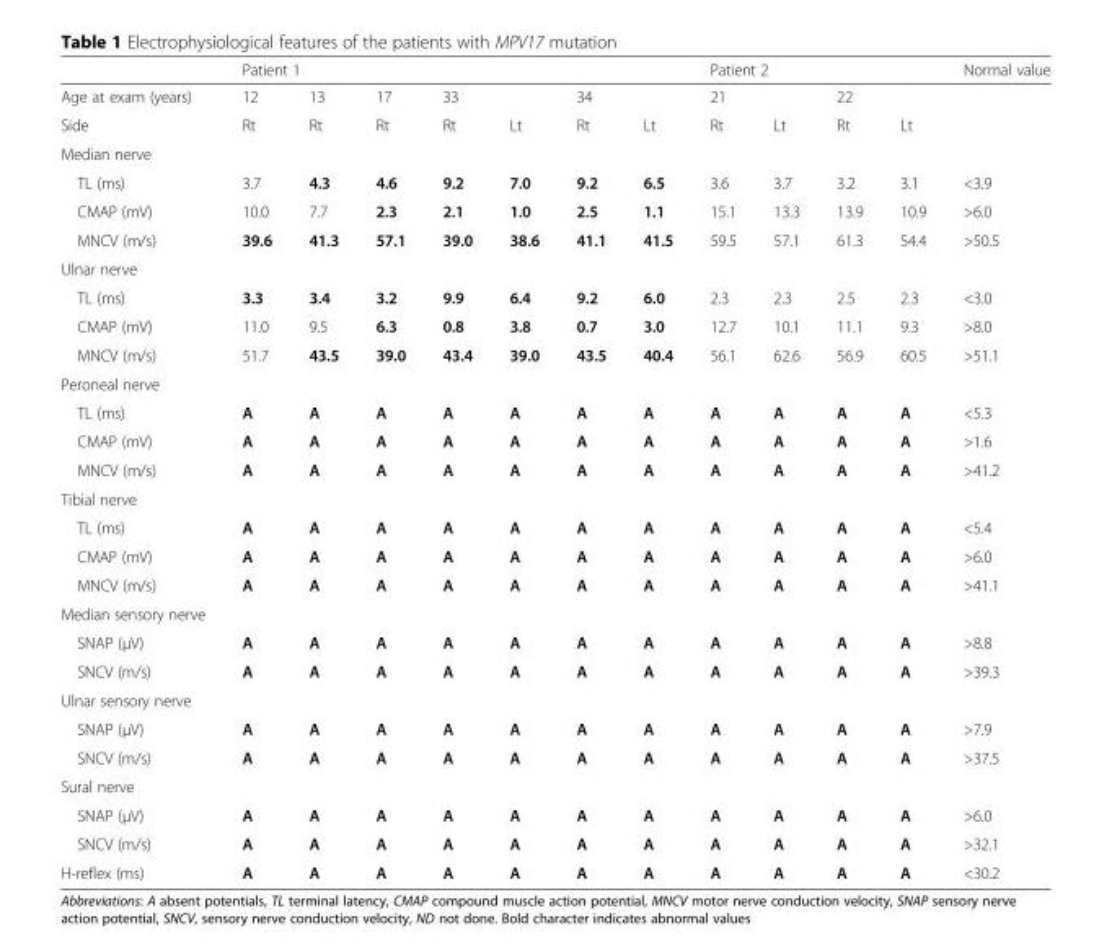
<table><thead><tr><td rowspan="2">Age at exam (years)</td><td colspan="2">Patient 1</td><td rowspan="2">17</td><td rowspan="2">33</td><td rowspan="2"></td><td rowspan="2">34</td><td rowspan="2"></td><td colspan="2">Patient 2</td><td rowspan="2">22</td><td rowspan="2"></td><td rowspan="2">Normal value</td></tr><tr><td>12</td><td>13</td><td>21</td><td></td></tr></thead><tbody><tr><td>Side</td><td>Rt</td><td>Rt</td><td>Rt</td><td>Rt</td><td>Lt</td><td>Rt</td><td>Lt</td><td>Rt</td><td>Lt</td><td>Rt</td><td>Lt</td><td></td></tr><tr><td colspan="13">Median nerve</td></tr><tr><td>TL (ms)</td><td>3.7</td><td>4.3</td><td>4.6</td><td>9.2</td><td>7.0</td><td>9.2</td><td>6.5</td><td>3.6</td><td>3.7</td><td>3.2</td><td>3.1</td><td>&lt;3.9</td></tr><tr><td>CMAP (mV)</td><td>10.0</td><td>7.7</td><td>2.3</td><td>2.1</td><td>1.0</td><td>2.5</td><td>1.1</td><td>15.1</td><td>13.3</td><td>13.9</td><td>10.9</td><td>&gt;6.0</td></tr><tr><td>MNCV (m/s)</td><td>39.6</td><td>41.3</td><td>57.1</td><td>39.0</td><td>38.6</td><td>41.1</td><td>41.5</td><td>59.5</td><td>57.1</td><td>61.3</td><td>54.4</td><td>&gt;50.5</td></tr><tr><td colspan="13">Ulnar nerve</td></tr><tr><td>TL (ms)</td><td>3.3</td><td>3.4</td><td>3.2</td><td>9.9</td><td>6.4</td><td>9.2</td><td>6.0</td><td>2.3</td><td>2.3</td><td>2.5</td><td>2.3</td><td>&lt;3.0</td></tr><tr><td>CMAP (mV)</td><td>11.0</td><td>9.5</td><td>6.3</td><td>0.8</td><td>3.8</td><td>0.7</td><td>3.0</td><td>12.7</td><td>10.1</td><td>11.1</td><td>9.3</td><td>&gt;8.0</td></tr><tr><td>MNCV (m/s)</td><td>51.7</td><td>43.5</td><td>39.0</td><td>43.4</td><td>39.0</td><td>43.5</td><td>40.4</td><td>56.1</td><td>62.6</td><td>56.9</td><td>60.5</td><td>&gt;51.1</td></tr><tr><td colspan="13">Peroneal nerve</td></tr><tr><td>TL (ms)</td><td>A</td><td>A</td><td>A</td><td>A</td><td>A</td><td>A</td><td>A</td><td>A</td><td>A</td><td>A</td><td>A</td><td>&lt;5.3</td></tr><tr><td>CMAP (mV)</td><td>A</td><td>A</td><td>A</td><td>A</td><td>A</td><td>A</td><td>A</td><td>A</td><td>A</td><td>A</td><td>A</td><td>&gt;1.6</td></tr><tr><td>MNCV (m/s)</td><td>A</td><td>A</td><td>A</td><td>A</td><td>A</td><td>A</td><td>A</td><td>A</td><td>A</td><td>A</td><td>A</td><td>&gt;41.2</td></tr><tr><td colspan="13">Tibial nerve</td></tr><tr><td>TL (ms)</td><td>A</td><td>A</td><td>A</td><td>A</td><td>A</td><td>A</td><td>A</td><td>A</td><td>A</td><td>A</td><td>A</td><td>&lt;5.4</td></tr><tr><td>CMAP (mV)</td><td>A</td><td>A</td><td>A</td><td>A</td><td>A</td><td>A</td><td>A</td><td>A</td><td>A</td><td>A</td><td>A</td><td>&gt;6.0</td></tr><tr><td>MNCV (m/s)</td><td>A</td><td>A</td><td>A</td><td>A</td><td>A</td><td>A</td><td>A</td><td>A</td><td>A</td><td>A</td><td>A</td><td>&gt;41.1</td></tr><tr><td colspan="13">Median sensory nerve</td></tr><tr><td>SNAP (μV)</td><td>A</td><td>A</td><td>A</td><td>A</td><td>A</td><td>A</td><td>A</td><td>A</td><td>A</td><td>A</td><td>A</td><td>&gt;8.8</td></tr><tr><td>SNCV (m/s)</td><td>A</td><td>A</td><td>A</td><td>A</td><td>A</td><td>A</td><td>A</td><td>A</td><td>A</td><td>A</td><td>A</td><td>&gt;39.3</td></tr><tr><td colspan="13">Ulnar sensory nerve</td></tr><tr><td>SNAP (μV)</td><td>A</td><td>A</td><td>A</td><td>A</td><td>A</td><td>A</td><td>A</td><td>A</td><td>A</td><td>A</td><td>A</td><td>&gt;7.9</td></tr><tr><td>SNCV (m/s)</td><td>A</td><td>A</td><td>A</td><td>A</td><td>A</td><td>A</td><td>A</td><td>A</td><td>A</td><td>A</td><td>A</td><td>&gt;37.5</td></tr><tr><td colspan="13">Sural nerve</td></tr><tr><td>SNAP (μV)</td><td>A</td><td>A</td><td>A</td><td>A</td><td>A</td><td>A</td><td>A</td><td>A</td><td>A</td><td>A</td><td>A</td><td>&gt;6.0</td></tr><tr><td>SNCV (m/s)</td><td>A</td><td>A</td><td>A</td><td>A</td><td>A</td><td>A</td><td>A</td><td>A</td><td>A</td><td>A</td><td>A</td><td>&gt;32.1</td></tr><tr><td>H-reflex (ms)</td><td>A</td><td>A</td><td>A</td><td>A</td><td>A</td><td>A</td><td>A</td><td>A</td><td>A</td><td>A</td><td>A</td><td>&lt;30.2</td></tr></tbody></table>